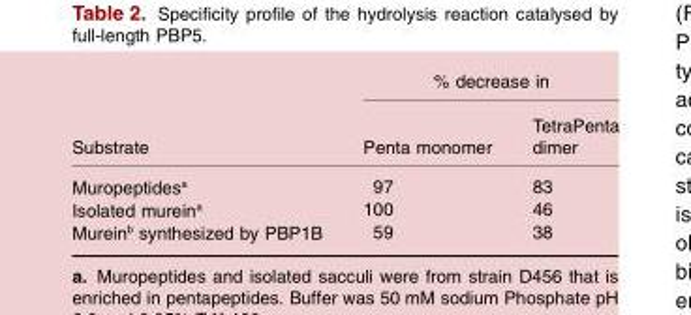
<table><thead><tr><td rowspan="2">Substrate</td><td colspan="2">% decrease in</td></tr><tr><td>Penta monomer</td><td>TetraPenta dimer</td></tr></thead><tbody><tr><td>Muropeptides<sup>a</sup></td><td>97</td><td>83</td></tr><tr><td>Isolated murein<sup>a</sup></td><td>100</td><td>46</td></tr><tr><td>Murein<sup>b</sup> synthesized by PBP1B</td><td>59</td><td>38</td></tr></tbody></table>